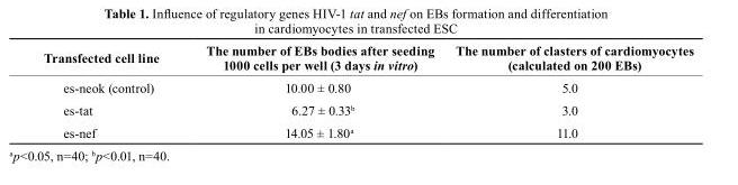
<table><thead><tr><td>transfected cell line</td><td>The number of EBs bodies after seeding 1000 cells per well (3 days in vitro)</td><td>the number of clasters of cardiomyocytes (calculated on 200 EBs)</td></tr></thead><tbody><tr><td>es-neok (control)</td><td>10.00 ± 0.80</td><td>5.0</td></tr><tr><td>es-tat</td><td>6.27 ± 0.33<sup>b</sup></td><td>3.0</td></tr><tr><td>es-nef</td><td>14.05 ± 1.80<sup>a</sup></td><td>11.0</td></tr></tbody></table>